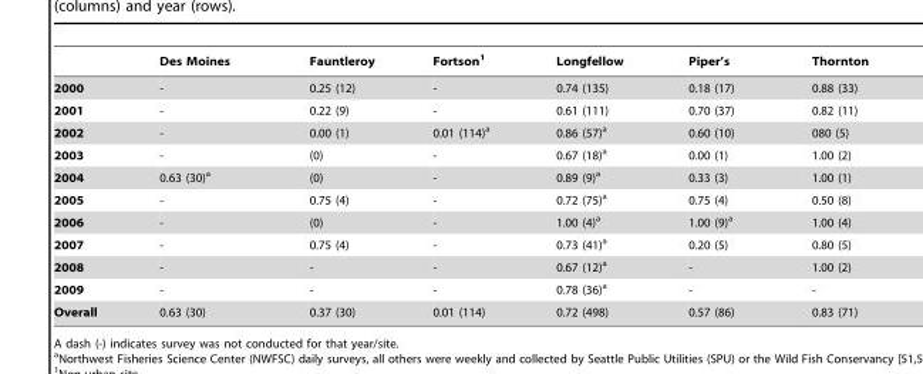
<table><thead><tr><td></td><td>Des Moines</td><td>Fauntleroy</td><td>Fortson<sup>1</sup></td><td>Longfellow</td><td>Piper’s</td><td>Thornton</td></tr></thead><tbody><tr><td>2000</td><td>-</td><td>0.25 (12)</td><td>-</td><td>0.74 (135)</td><td>0.18 (17)</td><td>0.88 (33)</td></tr><tr><td>2001</td><td>-</td><td>0.22 (9)</td><td>-</td><td>0.61 (111)</td><td>0.70 (37)</td><td>0.82 (11)</td></tr><tr><td>2002</td><td>-</td><td>0.00 (1)</td><td>0.01 (114)<sup>a</sup></td><td>0.86 (57)<sup>a</sup></td><td>0.60 (10)</td><td>080 (5)</td></tr><tr><td>2003</td><td>-</td><td>(0)</td><td>-</td><td>0.67 (18)<sup>a</sup></td><td>0.00 (1)</td><td>1.00 (2)</td></tr><tr><td>2004</td><td>0.63 (30)<sup>a</sup></td><td>(0)</td><td>-</td><td>0.89 (9)<sup>a</sup></td><td>0.33 (3)</td><td>1.00 (1)</td></tr><tr><td>2005</td><td>-</td><td>0.75 (4)</td><td>-</td><td>0.72 (75)<sup>a</sup></td><td>0.75 (4)</td><td>0.50 (8)</td></tr><tr><td>2006</td><td>-</td><td>(0)</td><td>-</td><td>1.00 (4)<sup>a</sup></td><td>1.00 (9)<sup>a</sup></td><td>1.00 (4)</td></tr><tr><td>2007</td><td>-</td><td>0.75 (4)</td><td>-</td><td>0.73 (41)<sup>a</sup></td><td>0.20 (5)</td><td>0.80 (5)</td></tr><tr><td>2008</td><td>-</td><td>-</td><td>-</td><td>0.67 (12)<sup>a</sup></td><td>-</td><td>1.00 (2)</td></tr><tr><td>2009</td><td>-</td><td>-</td><td>-</td><td>0.78 (36)<sup>a</sup></td><td>-</td><td>-</td></tr><tr><td>Overall</td><td>0.63 (30)</td><td>0.37 (30)</td><td>0.01 (114)</td><td>0.72 (498)</td><td>0.57 (86)</td><td>0.83 (71)</td></tr></tbody></table>